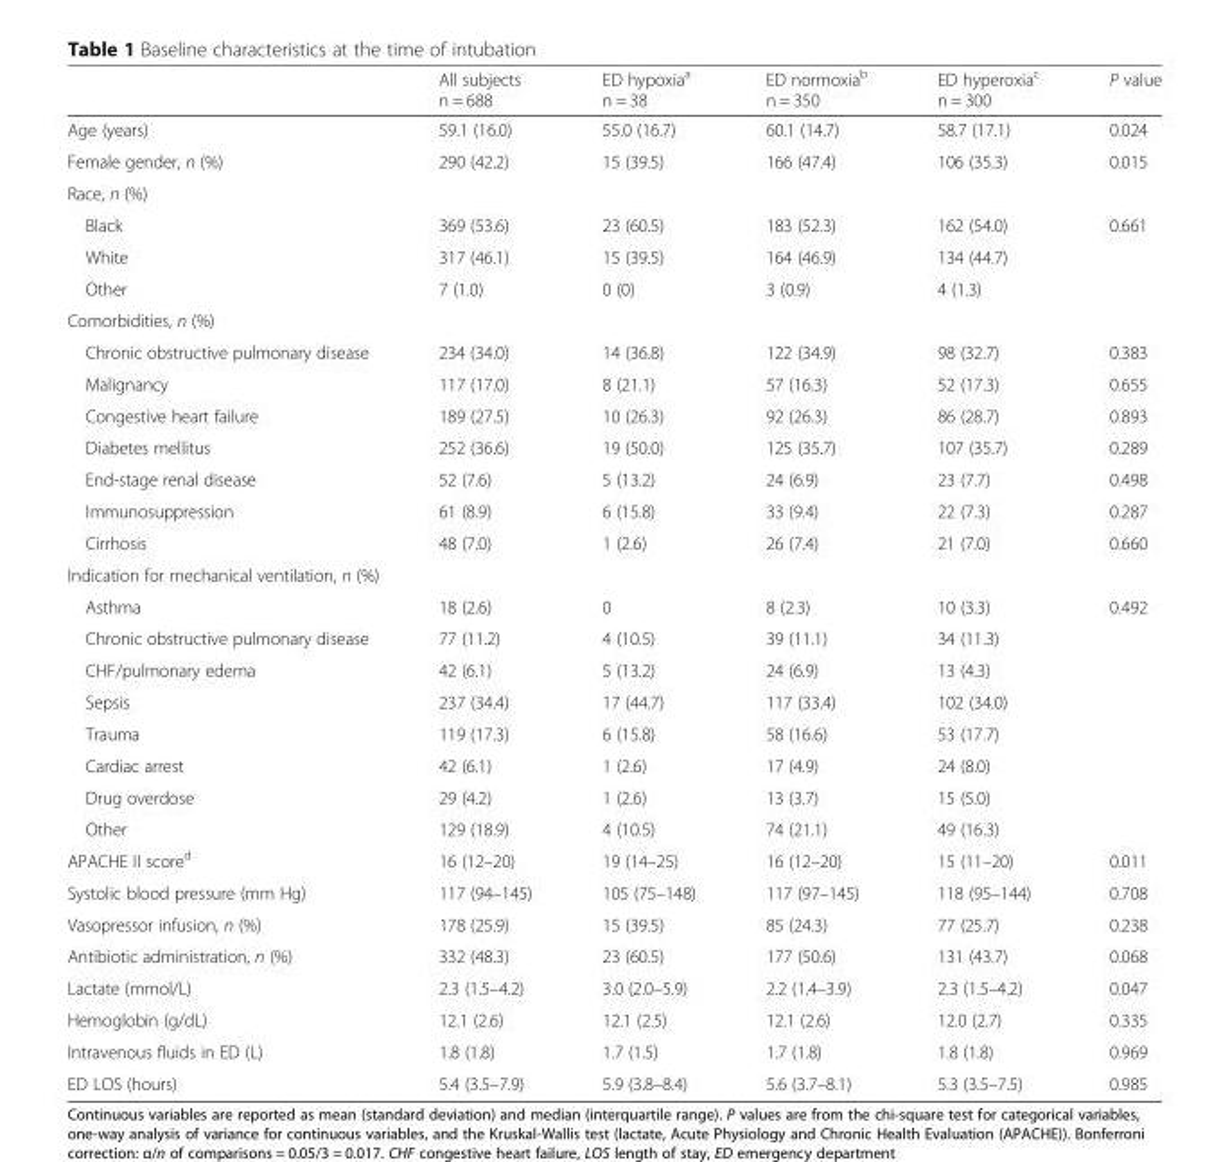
<table><thead><tr><td></td><td>All subjects n = 688</td><td>ED hypoxia<sup>a</sup> n = 38</td><td>ED normoxia<sup>b</sup> n = 350</td><td>ED hyperoxia<sup>c</sup> n = 300</td><td>P value</td></tr></thead><tbody><tr><td>Age (years)</td><td>59.1 (16.0)</td><td>55.0 (16.7)</td><td>60.1 (14.7)</td><td>58.7 (17.1)</td><td>0.024</td></tr><tr><td>Female gender, n (%)</td><td>290 (42.2)</td><td>15 (39.5)</td><td>166 (47.4)</td><td>106 (35.3)</td><td>0.015</td></tr><tr><td colspan="6">Race, n (%)</td></tr><tr><td>Black</td><td>369 (53.6)</td><td>23 (60.5)</td><td>183 (52.3)</td><td>162 (54.0)</td><td>0.661</td></tr><tr><td>White</td><td>317 (46.1)</td><td>15 (39.5)</td><td>164 (46.9)</td><td>134 (44.7)</td><td></td></tr><tr><td>Other</td><td>7 (1.0)</td><td>0 (0)</td><td>3 (0.9)</td><td>4 (1.3)</td><td></td></tr><tr><td colspan="6">Comorbidities, n (%)</td></tr><tr><td>Chronic obstructive pulmonary disease</td><td>234 (34.0)</td><td>14 (36.8)</td><td>122 (34.9)</td><td>98 (32.7)</td><td>0.383</td></tr><tr><td>Malignancy</td><td>117 (17.0)</td><td>8 (21.1)</td><td>57 (16.3)</td><td>52 (17.3)</td><td>0.655</td></tr><tr><td>Congestive heart failure</td><td>189 (27.5)</td><td>10 (26.3)</td><td>92 (26.3)</td><td>86 (28.7)</td><td>0.893</td></tr><tr><td>Diabetes mellitus</td><td>252 (36.6)</td><td>19 (50.0)</td><td>125 (35.7)</td><td>107 (35.7)</td><td>0.289</td></tr><tr><td>End-stage renal disease</td><td>52 (7.6)</td><td>5 (13.2)</td><td>24 (6.9)</td><td>23 (7.7)</td><td>0.498</td></tr><tr><td>Immunosuppression</td><td>61 (8.9)</td><td>6 (15.8)</td><td>33 (9.4)</td><td>22 (7.3)</td><td>0.287</td></tr><tr><td>Cirrhosis</td><td>48 (7.0)</td><td>1 (2.6)</td><td>26 (7.4)</td><td>21 (7.0)</td><td>0.660</td></tr><tr><td colspan="6">Indication for mechanical ventilation, n (%)</td></tr><tr><td>Asthma</td><td>18 (2.6)</td><td>0</td><td>8 (2.3)</td><td>10 (3.3)</td><td>0.492</td></tr><tr><td>Chronic obstructive pulmonary disease</td><td>77 (11.2)</td><td>4 (10.5)</td><td>39 (11.1)</td><td>34 (11.3)</td><td></td></tr><tr><td>CHF/pulmonary edema</td><td>42 (6.1)</td><td>5 (13.2)</td><td>24 (6.9)</td><td>13 (4.3)</td><td></td></tr><tr><td>Sepsis</td><td>237 (34.4)</td><td>17 (44.7)</td><td>117 (33.4)</td><td>102 (34.0)</td><td></td></tr><tr><td>Trauma</td><td>119 (17.3)</td><td>6 (15.8)</td><td>58 (16.6)</td><td>53 (17.7)</td><td></td></tr><tr><td>Cardiac arrest</td><td>42 (6.1)</td><td>1 (2.6)</td><td>17 (4.9)</td><td>24 (8.0)</td><td></td></tr><tr><td>Drug overdose</td><td>29 (4.2)</td><td>1 (2.6)</td><td>13 (3.7)</td><td>15 (5.0)</td><td></td></tr><tr><td>Other</td><td>129 (18.9)</td><td>4 (10.5)</td><td>74 (21.1)</td><td>49 (16.3)</td><td></td></tr><tr><td>APACHE II score<sup>d</sup></td><td>16 (12–20)</td><td>19 (14–25)</td><td>16 (12–20)</td><td>15 (11–20)</td><td>0.011</td></tr><tr><td>Systolic blood pressure (mm Hg)</td><td>117 (94–145)</td><td>105 (75–148)</td><td>117 (97–145)</td><td>118 (95–144)</td><td>0.708</td></tr><tr><td>Vasopressor infusion, n (%)</td><td>178 (25.9)</td><td>15 (39.5)</td><td>85 (24.3)</td><td>77 (25.7)</td><td>0.238</td></tr><tr><td>Antibiotic administration, n (%)</td><td>332 (48.3)</td><td>23 (60.5)</td><td>177 (50.6)</td><td>131 (43.7)</td><td>0.068</td></tr><tr><td>Lactate (mmol/L)</td><td>2.3 (1.5–4.2)</td><td>3.0 (2.0–5.9)</td><td>2.2 (1.4–3.9)</td><td>2.3 (1.5–4.2)</td><td>0.047</td></tr><tr><td>Hemoglobin (g/dL)</td><td>12.1 (2.6)</td><td>12.1 (2.5)</td><td>12.1 (2.6)</td><td>12.0 (2.7)</td><td>0.335</td></tr><tr><td>Intravenous fluids in ED (L)</td><td>1.8 (1.8)</td><td>1.7 (1.5)</td><td>1.7 (1.8)</td><td>1.8 (1.8)</td><td>0.969</td></tr><tr><td>ED LOS (hours)</td><td>5.4 (3.5–7.9)</td><td>5.9 (3.8–8.4)</td><td>5.6 (3.7–8.1)</td><td>5.3 (3.5–7.5)</td><td>0.985</td></tr></tbody></table>